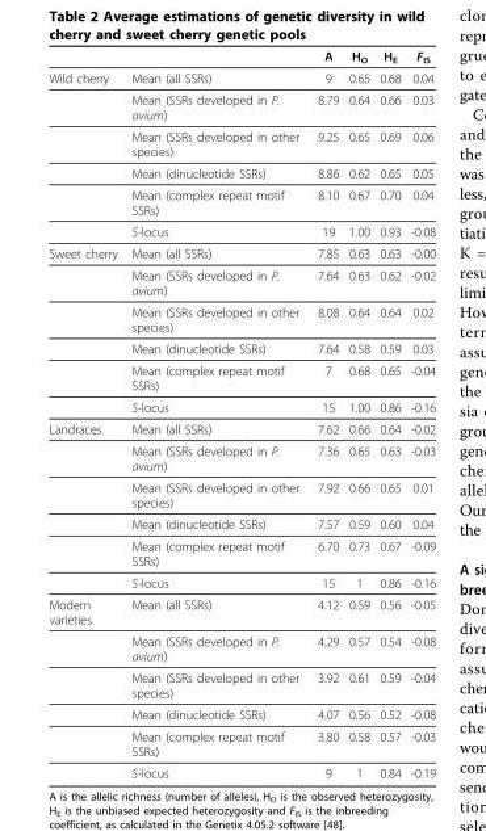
<table><thead><tr><td></td><td></td><td>A</td><td>H<sub>O</sub></td><td>H<sub>E</sub></td><td>F<sub>IS</sub></td></tr></thead><tbody><tr><td rowspan="6">Wild cherry</td><td>Mean (all SSRs)</td><td>9</td><td>0.65</td><td>0.68</td><td>0.04</td></tr><tr><td>Mean (SSRs developed in P. avium)</td><td>8.79</td><td>0.64</td><td>0.66</td><td>0.03</td></tr><tr><td>Mean (SSRs developed in other species)</td><td>9.25</td><td>0.65</td><td>0.69</td><td>0.06</td></tr><tr><td>Mean (dinucleotide SSRs)</td><td>8.86</td><td>0.62</td><td>0.65</td><td>0.05</td></tr><tr><td>Mean (complex repeat motif SSRs)</td><td>8.10</td><td>0.67</td><td>0.70</td><td>0.04</td></tr><tr><td>S-locus</td><td>19</td><td>1.00</td><td>0.93</td><td>-0.08</td></tr><tr><td rowspan="6">Sweet cherry</td><td>Mean (all SSRs)</td><td>7.85</td><td>0.63</td><td>0.63</td><td>-0.00</td></tr><tr><td>Mean (SSRs developed in P. avium)</td><td>7.64</td><td>0.63</td><td>0.62</td><td>-0.02</td></tr><tr><td>Mean (SSRs developed in other species)</td><td>8.08</td><td>0.64</td><td>0.64</td><td>0.02</td></tr><tr><td>Mean (dinucleotide SSRs)</td><td>7.64</td><td>0.58</td><td>0.59</td><td>0.03</td></tr><tr><td>Mean (complex repeat motif SSRs)</td><td>7</td><td>0.68</td><td>0.65</td><td>-0.04</td></tr><tr><td>S-locus</td><td>15</td><td>1.00</td><td>0.86</td><td>-0.16</td></tr><tr><td rowspan="6">Landraces</td><td>Mean (all SSRs)</td><td>7.62</td><td>0.66</td><td>0.64</td><td>-0.02</td></tr><tr><td>Mean (SSRs developed in P. avium)</td><td>7.36</td><td>0.65</td><td>0.63</td><td>-0.03</td></tr><tr><td>Mean (SSRs developed in other species)</td><td>7.92</td><td>0.66</td><td>0.65</td><td>0.01</td></tr><tr><td>Mean (dinucleotide SSRs)</td><td>7.57</td><td>0.59</td><td>0.60</td><td>0.04</td></tr><tr><td>Mean (complex repeat motif SSRs)</td><td>6.70</td><td>0.73</td><td>0.67</td><td>-0.09</td></tr><tr><td>S-locus</td><td>15</td><td>1</td><td>0.86</td><td>-0.16</td></tr><tr><td rowspan="6">Modern varieties</td><td>Mean (all SSRs)</td><td>4.12</td><td>0.59</td><td>0.56</td><td>-0.05</td></tr><tr><td>Mean (SSRs developed in P. avium)</td><td>4.29</td><td>0.57</td><td>0.54</td><td>-0.08</td></tr><tr><td>Mean (SSRs developed in other species)</td><td>3.92</td><td>0.61</td><td>0.59</td><td>-0.04</td></tr><tr><td>Mean (dinucleotide SSRs)</td><td>4.07</td><td>0.56</td><td>0.52</td><td>-0.08</td></tr><tr><td>Mean (complex repeat motif SSRs)</td><td>3.80</td><td>0.58</td><td>0.57</td><td>-0.03</td></tr><tr><td>S-locus</td><td>9</td><td>1</td><td>0.84</td><td>-0.19</td></tr></tbody></table>